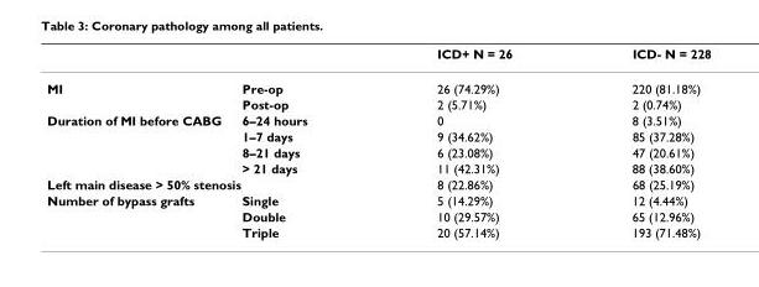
<table><thead><tr><td></td><td></td><td>ICD+ N = 26</td><td>ICD- N = 228</td></tr></thead><tbody><tr><td rowspan="2">MI</td><td>Pre-op</td><td>26 (74.29%)</td><td>220 (81.18%)</td></tr><tr><td>Post-op</td><td>2 (5.71%)</td><td>2 (0.74%)</td></tr><tr><td rowspan="4">Duration of MI before CABG</td><td>6–24 hours</td><td>0</td><td>8 (3.51%)</td></tr><tr><td>1–7 days</td><td>9 (34.62%)</td><td>85 (37.28%)</td></tr><tr><td>8–21 days</td><td>6 (23.08%)</td><td>47 (20.61%)</td></tr><tr><td>&gt; 21 days</td><td>11 (42.31%)</td><td>88 (38.60%)</td></tr><tr><td colspan="2">Left main disease &gt; 50% stenosis</td><td>8 (22.86%)</td><td>68 (25.19%)</td></tr><tr><td rowspan="3">Number of bypass grafts</td><td>Single</td><td>5 (14.29%)</td><td>12 (4.44%)</td></tr><tr><td>Double</td><td>10 (29.57%)</td><td>65 (12.96%)</td></tr><tr><td>Triple</td><td>20 (57.14%)</td><td>193 (71.48%)</td></tr></tbody></table>